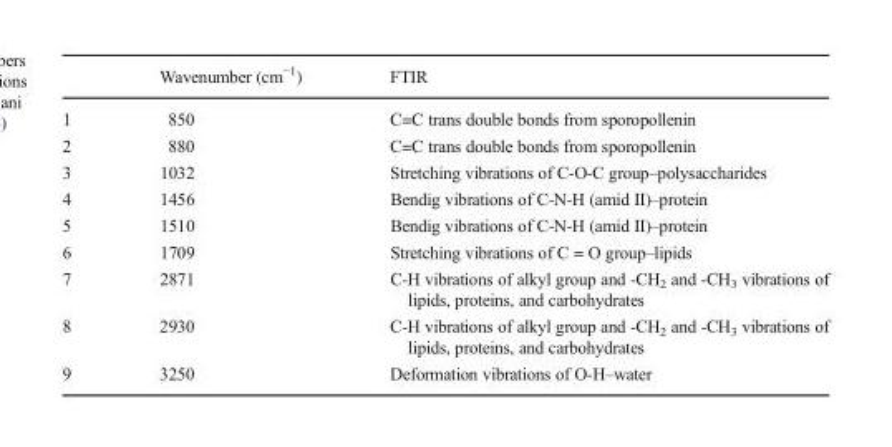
<table><thead><tr><td></td><td>Wavenumber (cm<sup>−1</sup>)</td><td>FTIR</td></tr></thead><tbody><tr><td>1</td><td>850</td><td>C=C trans double bonds from sporopollenin</td></tr><tr><td>2</td><td>880</td><td>C=C trans double bonds from sporopollenin</td></tr><tr><td>3</td><td>1032</td><td>Stretching vibrations of C-O-C group–polysaccharides</td></tr><tr><td>4</td><td>1456</td><td>Bendig vibrations of C-N-H (amid II)–protein</td></tr><tr><td>5</td><td>1510</td><td>Bendig vibrations of C-N-H (amid II)–protein</td></tr><tr><td>6</td><td>1709</td><td>Stretching vibrations of C = O group–lipids</td></tr><tr><td>7</td><td>2871</td><td>C-H vibrations of alkyl group and -CH<sub>2</sub> and -CH<sub>3</sub> vibrations of lipids, proteins, and carbohydrates</td></tr><tr><td>8</td><td>2930</td><td>C-H vibrations of alkyl group and -CH<sub>2</sub> and -CH<sub>3</sub> vibrations of lipids, proteins, and carbohydrates</td></tr><tr><td>9</td><td>3250</td><td>Deformation vibrations of O-H–water</td></tr></tbody></table>